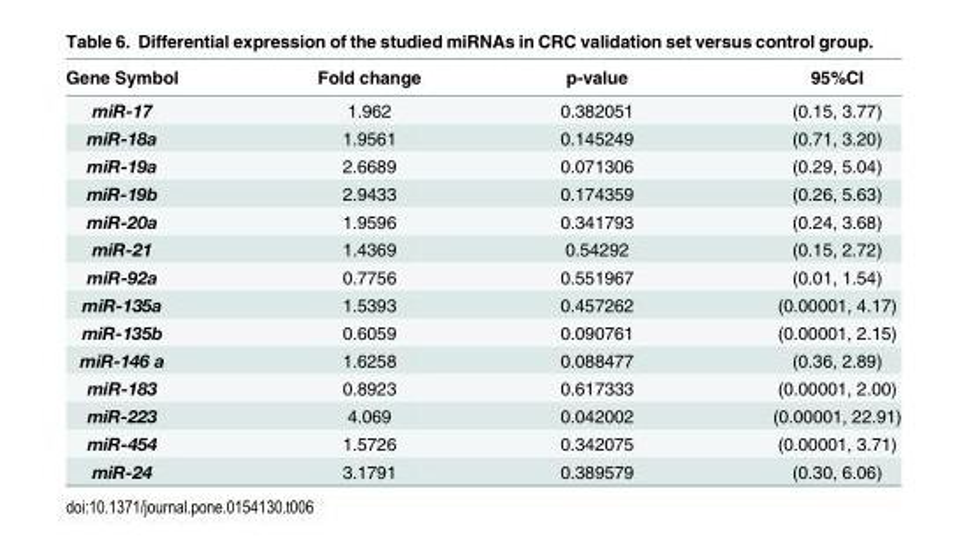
<table><thead><tr><td>Gene Symbol</td><td>Fold change</td><td>p-value</td><td>95%CI</td></tr></thead><tbody><tr><td>miR-17</td><td>1.962</td><td>0.382051</td><td>(0.15, 3.77)</td></tr><tr><td>miR-18a</td><td>1.9561</td><td>0.145249</td><td>(0.71, 3.20)</td></tr><tr><td>miR-19a</td><td>2.6689</td><td>0.071306</td><td>(0.29, 5.04)</td></tr><tr><td>miR-19b</td><td>2.9433</td><td>0.174359</td><td>(0.26, 5.63)</td></tr><tr><td>miR-20a</td><td>1.9596</td><td>0.341793</td><td>(0.24, 3.68)</td></tr><tr><td>miR-21</td><td>1.4369</td><td>0.54292</td><td>(0.15, 2.72)</td></tr><tr><td>miR-92a</td><td>0.7756</td><td>0.551967</td><td>(0.01, 1.54)</td></tr><tr><td>miR-135a</td><td>1.5393</td><td>0.457262</td><td>(0.00001, 4.17)</td></tr><tr><td>miR-135b</td><td>0.6059</td><td>0.090761</td><td>(0.00001, 2.15)</td></tr><tr><td>miR-146 a</td><td>1.6258</td><td>0.088477</td><td>(0.36, 2.89)</td></tr><tr><td>miR-183</td><td>0.8923</td><td>0.617333</td><td>(0.00001, 2.00)</td></tr><tr><td>miR-223</td><td>4.069</td><td>0.042002</td><td>(0.00001, 22.91)</td></tr><tr><td>miR-454</td><td>1.5726</td><td>0.342075</td><td>(0.00001, 3.71)</td></tr><tr><td>miR-24</td><td>3.1791</td><td>0.389579</td><td>(0.30, 6.06)</td></tr></tbody></table>